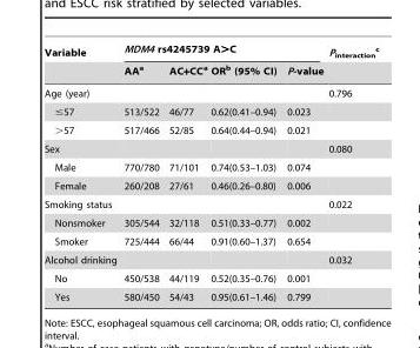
<table><thead><tr><td rowspan="2">Variable</td><td colspan="4">MDM4 rs4245739 A&gt;C</td><td rowspan="2">Pinteraction</td></tr><tr><td>AA<sup>a</sup></td><td>AC+CC<sup>a</sup></td><td>OR<sup>b</sup> (95% CI)</td><td>P-value</td></tr></thead><tbody><tr><td>Age (year)</td><td></td><td></td><td></td><td></td><td>0.796</td></tr><tr><td>≤57</td><td>513/522</td><td>46/77</td><td>0.62(0.41–0.94)</td><td>0.023</td><td></td></tr><tr><td>&gt;57</td><td>517/466</td><td>52/85</td><td>0.64(0.44–0.94)</td><td>0.021</td><td></td></tr><tr><td>Sex</td><td></td><td></td><td></td><td></td><td>0.080</td></tr><tr><td>Male</td><td>770/780</td><td>71/101</td><td>0.74(0.53–1.03)</td><td>0.074</td><td></td></tr><tr><td>Female</td><td>260/208</td><td>27/61</td><td>0.46(0.26–0.80)</td><td>0.006</td><td></td></tr><tr><td>Smoking status</td><td></td><td></td><td></td><td></td><td>0.022</td></tr><tr><td>Nonsmoker</td><td>305/544</td><td>32/118</td><td>0.51(0.33–0.77)</td><td>0.002</td><td></td></tr><tr><td>Smoker</td><td>725/444</td><td>66/44</td><td>0.91(0.60–1.37)</td><td>0.654</td><td></td></tr><tr><td>Alcohol drinking</td><td></td><td></td><td></td><td></td><td>0.032</td></tr><tr><td>No</td><td>450/538</td><td>44/119</td><td>0.52(0.35–0.76)</td><td>0.001</td><td></td></tr><tr><td>Yes</td><td>580/450</td><td>54/43</td><td>0.95(0.61–1.46)</td><td>0.799</td><td></td></tr></tbody></table>